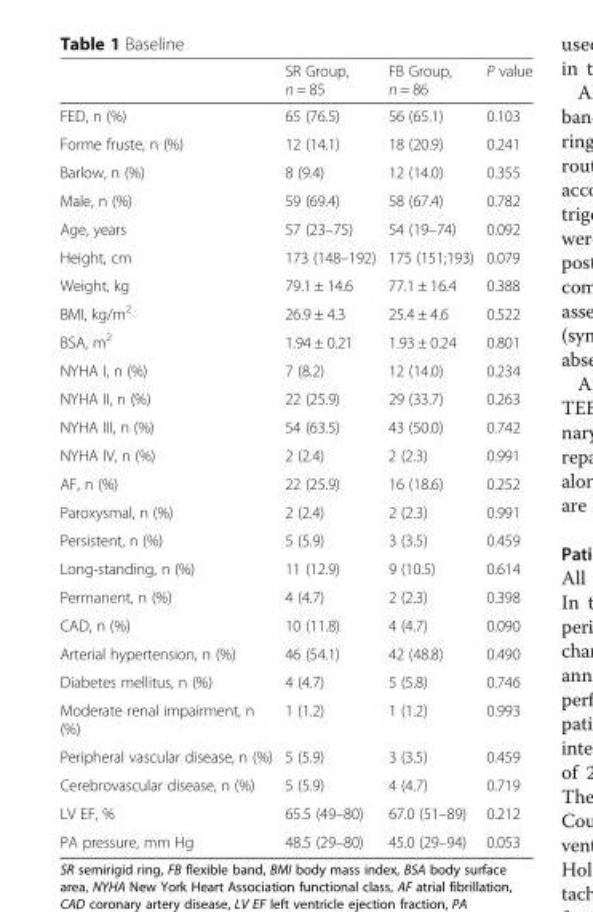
<table><thead><tr><td></td><td>SR Group, n = 85</td><td>FB Group, n = 86</td><td>Р value</td></tr></thead><tbody><tr><td>FED, n (%)</td><td>65 (76.5)</td><td>56 (65.1)</td><td>0.103</td></tr><tr><td>Forme fruste, n (%)</td><td>12 (14.1)</td><td>18 (20.9)</td><td>0.241</td></tr><tr><td>Barlow, n (%)</td><td>8 (9.4)</td><td>12 (14.0)</td><td>0.355</td></tr><tr><td>Male, n (%)</td><td>59 (69.4)</td><td>58 (67.4)</td><td>0.782</td></tr><tr><td>Age, years</td><td>57 (23–75)</td><td>54 (19–74)</td><td>0.092</td></tr><tr><td>Height, cm</td><td>173 (148–192)</td><td>175 (151;193)</td><td>0.079</td></tr><tr><td>Weight, kg</td><td>79.1 ± 14.6</td><td>77.1 ± 16.4</td><td>0.388</td></tr><tr><td>BMI, kg/m<sup>2</sup></td><td>26.9 ± 4.3</td><td>25.4 ± 4.6</td><td>0.522</td></tr><tr><td>BSA, m<sup>2</sup></td><td>1.94 ± 0.21</td><td>1.93 ± 0.24</td><td>0.801</td></tr><tr><td>NYHA I, n (%)</td><td>7 (8.2)</td><td>12 (14.0)</td><td>0.234</td></tr><tr><td>NYHA II, n (%)</td><td>22 (25.9)</td><td>29 (33.7)</td><td>0.263</td></tr><tr><td>NYHA III, n (%)</td><td>54 (63.5)</td><td>43 (50.0)</td><td>0.742</td></tr><tr><td>NYHA IV, n (%)</td><td>2 (2.4)</td><td>2 (2.3)</td><td>0.991</td></tr><tr><td>AF, n (%)</td><td>22 (25.9)</td><td>16 (18.6)</td><td>0.252</td></tr><tr><td>Paroxysmal, n (%)</td><td>2 (2.4)</td><td>2 (2.3)</td><td>0.991</td></tr><tr><td>Persistent, n (%)</td><td>5 (5.9)</td><td>3 (3.5)</td><td>0.459</td></tr><tr><td>Long-standing, n (%)</td><td>11 (12.9)</td><td>9 (10.5)</td><td>0.614</td></tr><tr><td>Permanent, n (%)</td><td>4 (4.7)</td><td>2 (2.3)</td><td>0.398</td></tr><tr><td>CAD, n (%)</td><td>10 (11.8)</td><td>4 (4.7)</td><td>0.090</td></tr><tr><td>Arterial hypertension, n (%)</td><td>46 (54.1)</td><td>42 (48.8)</td><td>0.490</td></tr><tr><td>Diabetes mellitus, n (%)</td><td>4 (4.7)</td><td>5 (5.8)</td><td>0.746</td></tr><tr><td>Moderate renal impairment, n (%)</td><td>1 (1.2)</td><td>1 (1.2)</td><td>0.993</td></tr><tr><td>Peripheral vascular disease, n (%)</td><td>5 (5.9)</td><td>3 (3.5)</td><td>0.459</td></tr><tr><td>Cerebrovascular disease, n (%)</td><td>5 (5.9)</td><td>4 (4.7)</td><td>0.719</td></tr><tr><td>LV EF, %</td><td>65.5 (49–80)</td><td>67.0 (51–89)</td><td>0.212</td></tr><tr><td>PA pressure, mm Hg</td><td>48.5 (29–80)</td><td>45.0 (29–94)</td><td>0.053</td></tr></tbody></table>